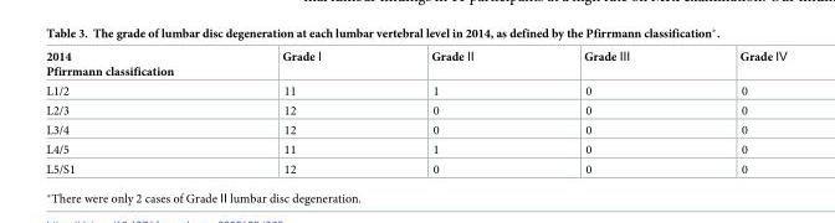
<table><thead><tr><td>2014 Pfirrmann classification</td><td>Grade Ⅰ</td><td>Grade Ⅱ</td><td>Grade Ⅲ</td><td>Grade Ⅳ</td></tr></thead><tbody><tr><td>L1/2</td><td>11</td><td>1</td><td>0</td><td>0</td></tr><tr><td>L2/3</td><td>12</td><td>0</td><td>0</td><td>0</td></tr><tr><td>L3/4</td><td>12</td><td>0</td><td>0</td><td>0</td></tr><tr><td>L4/5</td><td>11</td><td>1</td><td>0</td><td>0</td></tr><tr><td>L5/S1</td><td>12</td><td>0</td><td>0</td><td>0</td></tr></tbody></table>